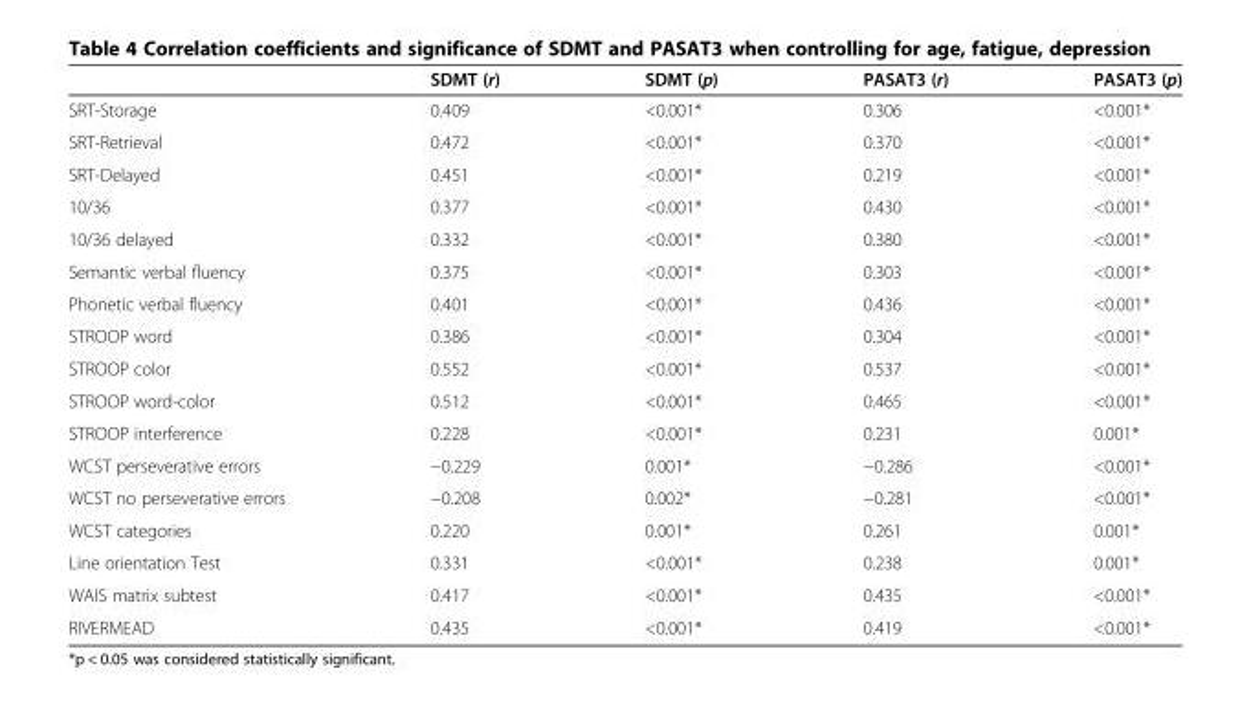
<table><thead><tr><td></td><td>SDMT (r)</td><td>SDMT (p)</td><td>PASAT3 (r)</td><td>PASAT3 (p)</td></tr></thead><tbody><tr><td>SRT-Storage</td><td>0.409</td><td>&lt;0.001*</td><td>0.306</td><td>&lt;0.001*</td></tr><tr><td>SRT-Retrieval</td><td>0.472</td><td>&lt;0.001*</td><td>0.370</td><td>&lt;0.001*</td></tr><tr><td>SRT-Delayed</td><td>0.451</td><td>&lt;0.001*</td><td>0.219</td><td>&lt;0.001*</td></tr><tr><td>10/36</td><td>0.377</td><td>&lt;0.001*</td><td>0.430</td><td>&lt;0.001*</td></tr><tr><td>10/36 delayed</td><td>0.332</td><td>&lt;0.001*</td><td>0.380</td><td>&lt;0.001*</td></tr><tr><td>Semantic verbal fluency</td><td>0.375</td><td>&lt;0.001*</td><td>0.303</td><td>&lt;0.001*</td></tr><tr><td>Phonetic verbal fluency</td><td>0.401</td><td>&lt;0.001*</td><td>0.436</td><td>&lt;0.001*</td></tr><tr><td>STROOP word</td><td>0.386</td><td>&lt;0.001*</td><td>0.304</td><td>&lt;0.001*</td></tr><tr><td>STROOP color</td><td>0.552</td><td>&lt;0.001*</td><td>0.537</td><td>&lt;0.001*</td></tr><tr><td>STROOP word-color</td><td>0.512</td><td>&lt;0.001*</td><td>0.465</td><td>&lt;0.001*</td></tr><tr><td>STROOP interference</td><td>0.228</td><td>&lt;0.001*</td><td>0.231</td><td>0.001*</td></tr><tr><td>WCST perseverative errors</td><td>−0.229</td><td>0.001*</td><td>−0.286</td><td>&lt;0.001*</td></tr><tr><td>WCST no perseverative errors</td><td>−0.208</td><td>0.002*</td><td>−0.281</td><td>&lt;0.001*</td></tr><tr><td>WCST categories</td><td>0.220</td><td>0.001*</td><td>0.261</td><td>0.001*</td></tr><tr><td>Line orientation Test</td><td>0.331</td><td>&lt;0.001*</td><td>0.238</td><td>0.001*</td></tr><tr><td>WAIS matrix subtest</td><td>0.417</td><td>&lt;0.001*</td><td>0.435</td><td>&lt;0.001*</td></tr><tr><td>RIVERMEAD</td><td>0.435</td><td>&lt;0.001*</td><td>0.419</td><td>&lt;0.001*</td></tr></tbody></table>